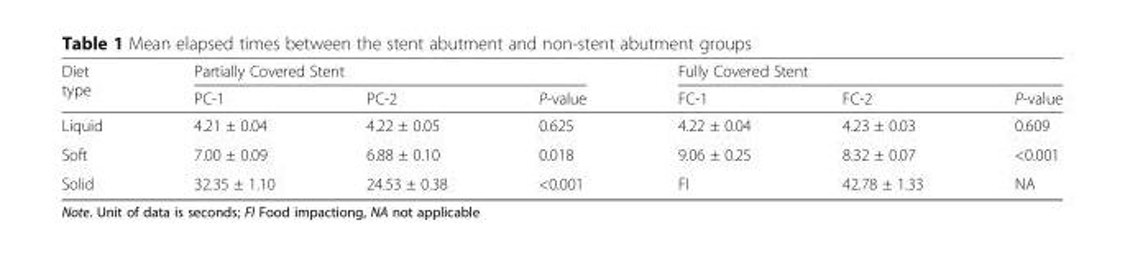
<table><thead><tr><td rowspan="2">Diet type</td><td colspan="3">Partially Covered Stent</td><td colspan="3">Fully Covered Stent</td></tr><tr><td>PC-1</td><td>PC-2</td><td>P-value</td><td>FC-1</td><td>FC-2</td><td>P-value</td></tr></thead><tbody><tr><td>Liquid</td><td>4.21 ± 0.04</td><td>4.22 ± 0.05</td><td>0.625</td><td>4.22 ± 0.04</td><td>4.23 ± 0.03</td><td>0.609</td></tr><tr><td>Soft</td><td>7.00 ± 0.09</td><td>6.88 ± 0.10</td><td>0.018</td><td>9.06 ± 0.25</td><td>8.32 ± 0.07</td><td>&lt;0.001</td></tr><tr><td>Solid</td><td>32.35 ± 1.10</td><td>24.53 ± 0.38</td><td>&lt;0.001</td><td>FI</td><td>42.78 ± 1.33</td><td>NA</td></tr></tbody></table>